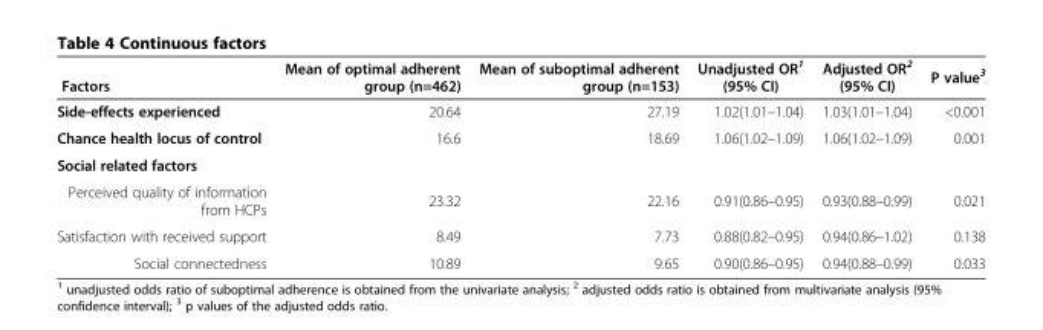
<table><thead><tr><td>Factors</td><td>Mean of optimal adherent group (n=462)</td><td>Mean of suboptimal adherent group (n=153)</td><td>Unadjusted OR<sup>1</sup> (95% CI)</td><td>Adjusted OR<sup>2</sup> (95% CI)</td><td>P value<sup>3</sup></td></tr></thead><tbody><tr><td>Side-effects experienced</td><td>20.64</td><td>27.19</td><td>1.02(1.01–1.04)</td><td>1.03(1.01–1.04)</td><td>&lt;0.001</td></tr><tr><td>Chance health locus of control</td><td>16.6</td><td>18.69</td><td>1.06(1.02–1.09)</td><td>1.06(1.02–1.09)</td><td>0.001</td></tr><tr><td colspan="6">Social related factors</td></tr><tr><td>Perceived quality of information from HCPs</td><td>23.32</td><td>22.16</td><td>0.91(0.86–0.95)</td><td>0.93(0.88–0.99)</td><td>0.021</td></tr><tr><td>Satisfaction with received support</td><td>8.49</td><td>7.73</td><td>0.88(0.82–0.95)</td><td>0.94(0.86–1.02)</td><td>0.138</td></tr><tr><td>Social connectedness</td><td>10.89</td><td>9.65</td><td>0.90(0.86–0.95)</td><td>0.94(0.88–0.99)</td><td>0.033</td></tr></tbody></table>